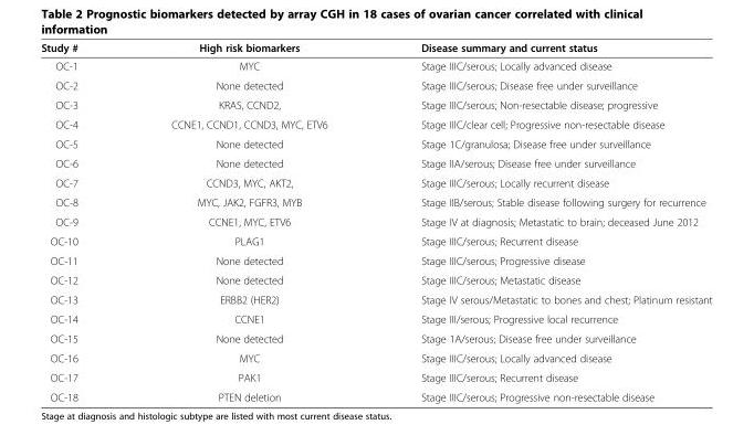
<table><thead><tr><td>Study #</td><td>High risk biomarkers</td><td>Disease summary and current status</td></tr></thead><tbody><tr><td>OC-1</td><td>MYC</td><td>Stage IIIC/serous; Locally advanced disease</td></tr><tr><td>OC-2</td><td>None detected</td><td>Stage IIIC/serous; Disease free under surveillance</td></tr><tr><td>OC-3</td><td>KRAS, CCND2,</td><td>Stage IIIC/serous; Non-resectable disease; progressive</td></tr><tr><td>OC-4</td><td>CCNE1, CCND1, CCND3, MYC, ETV6</td><td>Stage IIIC/clear cell; Progressive non-resectable disease</td></tr><tr><td>OC-5</td><td>None detected</td><td>Stage 1C/granulosa; Disease free under surveillance</td></tr><tr><td>OC-6</td><td>None detected</td><td>Stage IIA/serous; Disease free under surveillance</td></tr><tr><td>OC-7</td><td>CCND3, MYC, AKT2,</td><td>Stage IIIC/serous; Locally recurrent disease</td></tr><tr><td>OC-8</td><td>MYC, JAK2, FGFR3, MYB</td><td>Stage IIB/serous; Stable disease following surgery for recurrence</td></tr><tr><td>OC-9</td><td>CCNE1, MYC, ETV6</td><td>Stage IV at diagnosis; Metastatic to brain; deceased June 2012</td></tr><tr><td>OC-10</td><td>PLAG1</td><td>Stage IIIC/serous; Recurrent disease</td></tr><tr><td>OC-11</td><td>None detected</td><td>Stage IIIC/serous; Progressive disease</td></tr><tr><td>OC-12</td><td>None detected</td><td>Stage IIIC/serous; Metastatic disease</td></tr><tr><td>OC-13</td><td>ERBB2 (HER2)</td><td>Stage IV serous/Metastatic to bones and chest; Platinum resistant</td></tr><tr><td>OC-14</td><td>CCNE1</td><td>Stage III/serous; Progressive local recurrence</td></tr><tr><td>OC-15</td><td>None detected</td><td>Stage 1A/serous; Disease free under surveillance</td></tr><tr><td>OC-16</td><td>MYC</td><td>Stage IIIC/serous; Locally advanced disease</td></tr><tr><td>OC-17</td><td>PAK1</td><td>Stage IIIC/serous; Recurrent disease</td></tr><tr><td>OC-18</td><td>PTEN deletion</td><td>Stage IIIC/serous; Progressive non-resectable disease</td></tr></tbody></table>